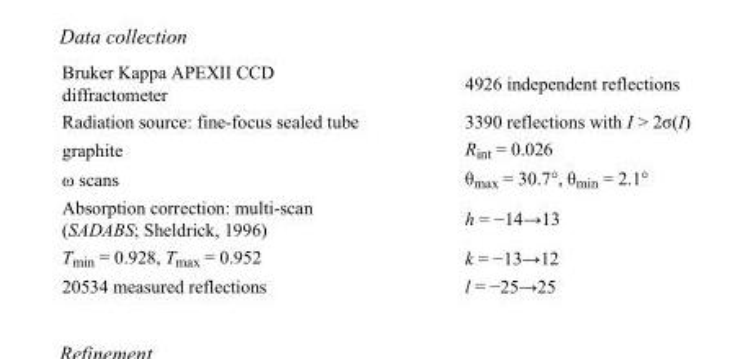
<table><tbody><tr><td>Bruker Kappa APEXII CCD diffractometer</td><td>4926 independent reflections</td></tr><tr><td>Radiation source: fine-focus sealed tube</td><td>3390 reflections with I &gt; 2σ(I)</td></tr><tr><td>graphite</td><td>R<sub>int</sub> = 0.026</td></tr><tr><td>ω scans</td><td>θ<sub>max</sub> = 30.7°, θ<sub>min</sub> = 2.1°</td></tr><tr><td>Absorption correction: multi-scan (SADABS; Sheldrick, 1996)</td><td>h = −14→13</td></tr><tr><td>T<sub>min</sub> = 0.928, T<sub>max</sub> = 0.952</td><td>k = −13→12</td></tr><tr><td>20534 measured reflections</td><td>l = −25→25</td></tr></tbody></table>